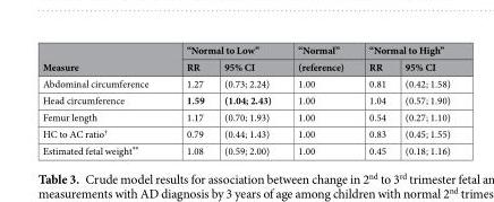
<table><thead><tr><td rowspan="2">Measure</td><td colspan="2">“Normal to Low”</td><td rowspan="2">“Normal” (reference)</td><td colspan="2">“Normal to High”</td></tr><tr><td>RR</td><td>95% CI</td><td>RR</td><td>95% CI</td></tr></thead><tbody><tr><td>Abdominal circumference</td><td>1.27</td><td>(0.73; 2.24)</td><td>1.00</td><td>0.81</td><td>(0.42; 1.58)</td></tr><tr><td>Head circumference</td><td>1.59</td><td>(1.04; 2.43)</td><td>1.00</td><td>1.04</td><td>(0.57; 1.90)</td></tr><tr><td>Femur length</td><td>1.17</td><td>(0.70; 1.93)</td><td>1.00</td><td>0.54</td><td>(0.27; 1.10)</td></tr><tr><td>HC to AC ratio<sup>†</sup></td><td>0.79</td><td>(0.44; 1.43)</td><td>1.00</td><td>0.83</td><td>(0.45; 1.55)</td></tr><tr><td>Estimated fetal weight**</td><td>1.08</td><td>(0.59; 2.00)</td><td>1.00</td><td>0.45</td><td>(0.18; 1.16)</td></tr></tbody></table>